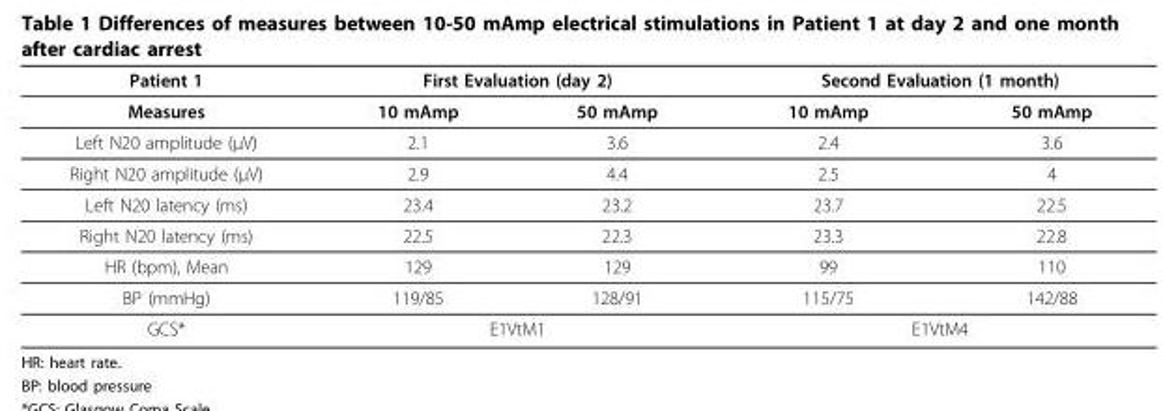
<table><thead><tr><td rowspan="2">Patient 1 Measures</td><td colspan="2">First Evaluation (day 2)</td><td colspan="2">Second Evaluation (1 month)</td></tr><tr><td>10 mAmp</td><td>50 mAmp</td><td>10 mAmp</td><td>50 mAmp</td></tr></thead><tbody><tr><td>Left N20 amplitude (μV)</td><td>2.1</td><td>3.6</td><td>2.4</td><td>3.6</td></tr><tr><td>Right N20 amplitude (μV)</td><td>2.9</td><td>4.4</td><td>2.5</td><td>4</td></tr><tr><td>Left N20 latency (ms)</td><td>23.4</td><td>23.2</td><td>23.7</td><td>22.5</td></tr><tr><td>Right N20 latency (ms)</td><td>22.5</td><td>22.3</td><td>23.3</td><td>22.8</td></tr><tr><td>HR (bpm), Mean</td><td>129</td><td>129</td><td>99</td><td>110</td></tr><tr><td>BP (mmHg)</td><td>119/85</td><td>128/91</td><td>115/75</td><td>142/88</td></tr><tr><td>GCS*</td><td colspan="2">E1VtM1</td><td colspan="2">E1VtM4</td></tr></tbody></table>